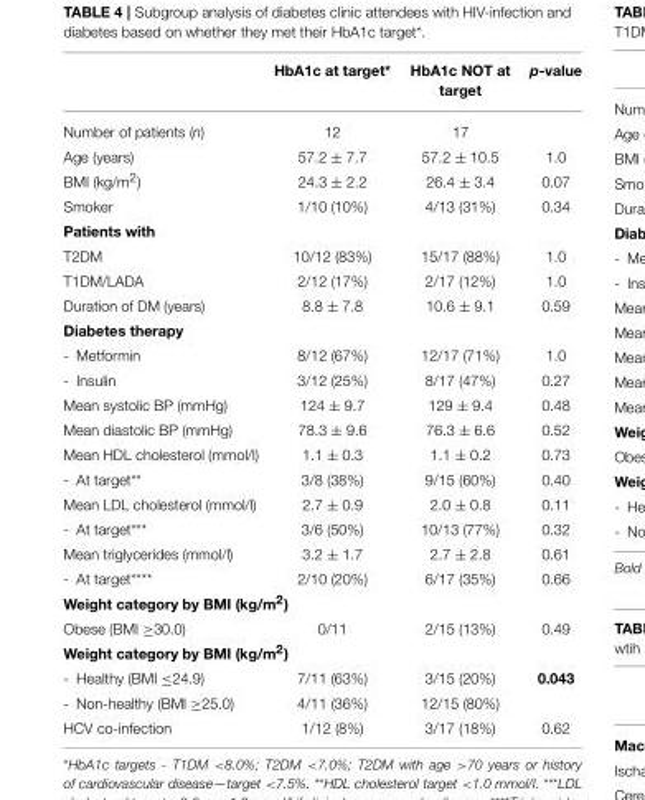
<table><thead><tr><td></td><td>HbA1c at target*</td><td>HbA1c NOT at target</td><td>p-value</td></tr></thead><tbody><tr><td>Number of patients (n)</td><td>12</td><td>17</td><td></td></tr><tr><td>Age (years)</td><td>57.2 ± 7.7</td><td>57.2 ± 10.5</td><td>1.0</td></tr><tr><td>BMI (kg/m<sup>2</sup>)</td><td>24.3 ± 2.2</td><td>26.4 ± 3.4</td><td>0.07</td></tr><tr><td>Smoker</td><td>1/10 (10%)</td><td>4/13 (31%)</td><td>0.34</td></tr><tr><td colspan="4">Patients with</td></tr><tr><td>T2DM</td><td>10/12 (83%)</td><td>15/17 (88%)</td><td>1.0</td></tr><tr><td>T1DM/LADA</td><td>2/12 (17%)</td><td>2/17 (12%)</td><td>1.0</td></tr><tr><td>Duration of DM (years)</td><td>8.8 ± 7.8</td><td>10.6 ± 9.1</td><td>0.59</td></tr><tr><td colspan="4">Diabetes therapy</td></tr><tr><td>- Metformin</td><td>8/12 (67%)</td><td>12/17 (71%)</td><td>1.0</td></tr><tr><td>- Insulin</td><td>3/12 (25%)</td><td>8/17 (47%)</td><td>0.27</td></tr><tr><td>Mean systolic BP (mmHg)</td><td>124 ± 9.7</td><td>129 ± 9.4</td><td>0.48</td></tr><tr><td>Mean diastolic BP (mmHg)</td><td>78.3 ± 9.6</td><td>76.3 ± 6.6</td><td>0.52</td></tr><tr><td>Mean HDL cholesterol (mmol/l)</td><td>1.1 ± 0.3</td><td>1.1 ± 0.2</td><td>0.73</td></tr><tr><td>- At target**</td><td>3/8 (38%)</td><td>9/15 (60%)</td><td>0.40</td></tr><tr><td>Mean LDL cholesterol (mmol/l)</td><td>2.7 ± 0.9</td><td>2.0 ± 0.8</td><td>0.11</td></tr><tr><td>- At target***</td><td>3/6 (50%)</td><td>10/13 (77%)</td><td>0.32</td></tr><tr><td>Mean triglycerides (mmol/l)</td><td>3.2 ± 1.7</td><td>2.7 ± 2.8</td><td>0.61</td></tr><tr><td>- At target****</td><td>2/10 (20%)</td><td>6/17 (35%)</td><td>0.66</td></tr><tr><td colspan="4">Weight category by BMI (kg/m<sup>2</sup>)</td></tr><tr><td>Obese (BMI ≥30.0)</td><td>0/11</td><td>2/15 (13%)</td><td>0.49</td></tr><tr><td colspan="4">Weight category by BMI (kg/m<sup>2</sup>)</td></tr><tr><td>- Healthy (BMI ≤24.9)</td><td>7/11 (63%)</td><td>3/15 (20%)</td><td>0.043</td></tr><tr><td>- Non-healthy (BMI ≥25.0)</td><td>4/11 (36%)</td><td>12/15 (80%)</td><td></td></tr><tr><td>HCV co-infection</td><td>1/12 (8%)</td><td>3/17 (18%)</td><td>0.62</td></tr></tbody></table>